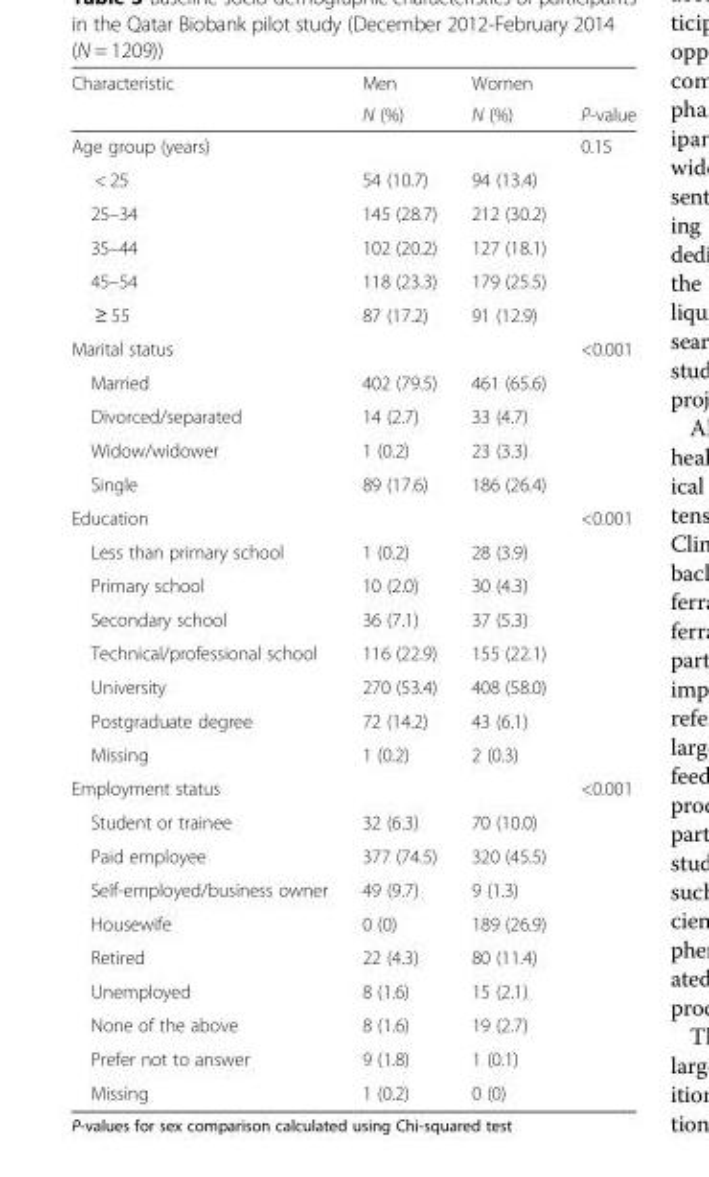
<table><thead><tr><td rowspan="2">Characteristic</td><td rowspan="2">Men N (%)</td><td rowspan="2">Women N (%)</td><td rowspan="2">P-value</td></tr><tr></tr></thead><tbody><tr><td>Age group (years)</td><td></td><td></td><td>0.15</td></tr><tr><td>&lt; 25</td><td>54 (10.7)</td><td>94 (13.4)</td><td></td></tr><tr><td>25–34</td><td>145 (28.7)</td><td>212 (30.2)</td><td></td></tr><tr><td>35–44</td><td>102 (20.2)</td><td>127 (18.1)</td><td></td></tr><tr><td>45–54</td><td>118 (23.3)</td><td>179 (25.5)</td><td></td></tr><tr><td>≥ 55</td><td>87 (17.2)</td><td>91 (12.9)</td><td></td></tr><tr><td>Marital status</td><td></td><td></td><td>&lt;0.001</td></tr><tr><td>Married</td><td>402 (79.5)</td><td>461 (65.6)</td><td></td></tr><tr><td>Divorced/separated</td><td>14 (2.7)</td><td>33 (4.7)</td><td></td></tr><tr><td>Widow/widower</td><td>1 (0.2)</td><td>23 (3.3)</td><td></td></tr><tr><td>Single</td><td>89 (17.6)</td><td>186 (26.4)</td><td></td></tr><tr><td>Education</td><td></td><td></td><td>&lt;0.001</td></tr><tr><td>Less than primary school</td><td>1 (0.2)</td><td>28 (3.9)</td><td></td></tr><tr><td>Primary school</td><td>10 (2.0)</td><td>30 (4.3)</td><td></td></tr><tr><td>Secondary school</td><td>36 (7.1)</td><td>37 (5.3)</td><td></td></tr><tr><td>Technical/professional school</td><td>116 (22.9)</td><td>155 (22.1)</td><td></td></tr><tr><td>University</td><td>270 (53.4)</td><td>408 (58.0)</td><td></td></tr><tr><td>Postgraduate degree</td><td>72 (14.2)</td><td>43 (6.1)</td><td></td></tr><tr><td>Missing</td><td>1 (0.2)</td><td>2 (0.3)</td><td></td></tr><tr><td>Employment status</td><td></td><td></td><td>&lt;0.001</td></tr><tr><td>Student or trainee</td><td>32 (6.3)</td><td>70 (10.0)</td><td></td></tr><tr><td>Paid employee</td><td>377 (74.5)</td><td>320 (45.5)</td><td></td></tr><tr><td>Self-employed/business owner</td><td>49 (9.7)</td><td>9 (1.3)</td><td></td></tr><tr><td>Housewife</td><td>0 (0)</td><td>189 (26.9)</td><td></td></tr><tr><td>Retired</td><td>22 (4.3)</td><td>80 (11.4)</td><td></td></tr><tr><td>Unemployed</td><td>8 (1.6)</td><td>15 (2.1)</td><td></td></tr><tr><td>None of the above</td><td>8 (1.6)</td><td>19 (2.7)</td><td></td></tr><tr><td>Prefer not to answer</td><td>9 (1.8)</td><td>1 (0.1)</td><td></td></tr><tr><td>Missing</td><td>1 (0.2)</td><td>0 (0)</td><td></td></tr></tbody></table>